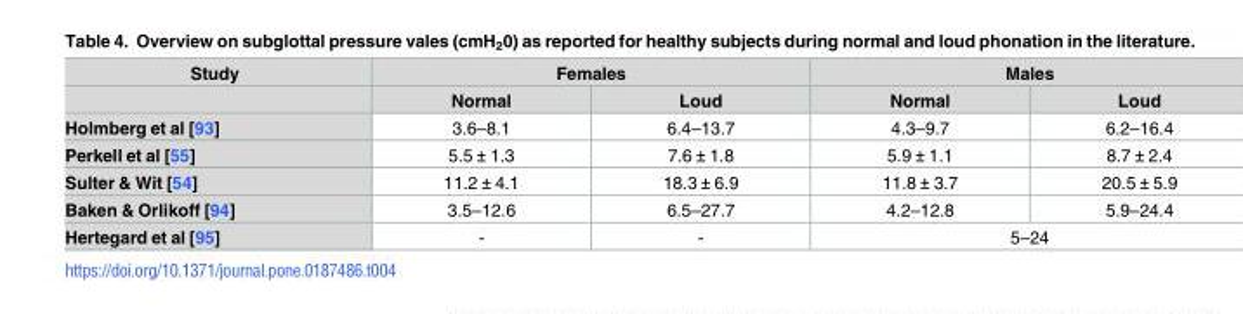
<table><thead><tr><td rowspan="2">Study</td><td colspan="2">Females</td><td colspan="2">Males</td></tr><tr><td>Normal</td><td>Loud</td><td>Normal</td><td>Loud</td></tr></thead><tbody><tr><td>Holmberg et al [93]</td><td>3.6–8.1</td><td>6.4–13.7</td><td>4.3–9.7</td><td>6.2–16.4</td></tr><tr><td>Perkell et al [55]</td><td>5.5 ± 1.3</td><td>7.6 ± 1.8</td><td>5.9 ± 1.1</td><td>8.7 ± 2.4</td></tr><tr><td>Sulter &amp; Wit [54]</td><td>11.2 ± 4.1</td><td>18.3 ± 6.9</td><td>11.8 ± 3.7</td><td>20.5 ± 5.9</td></tr><tr><td>Baken &amp; Orlikoff [94]</td><td>3.5–12.6</td><td>6.5–27.7</td><td>4.2–12.8</td><td>5.9–24.4</td></tr><tr><td>Hertegard et al [95]</td><td>-</td><td>-</td><td colspan="2">5–24</td></tr></tbody></table>